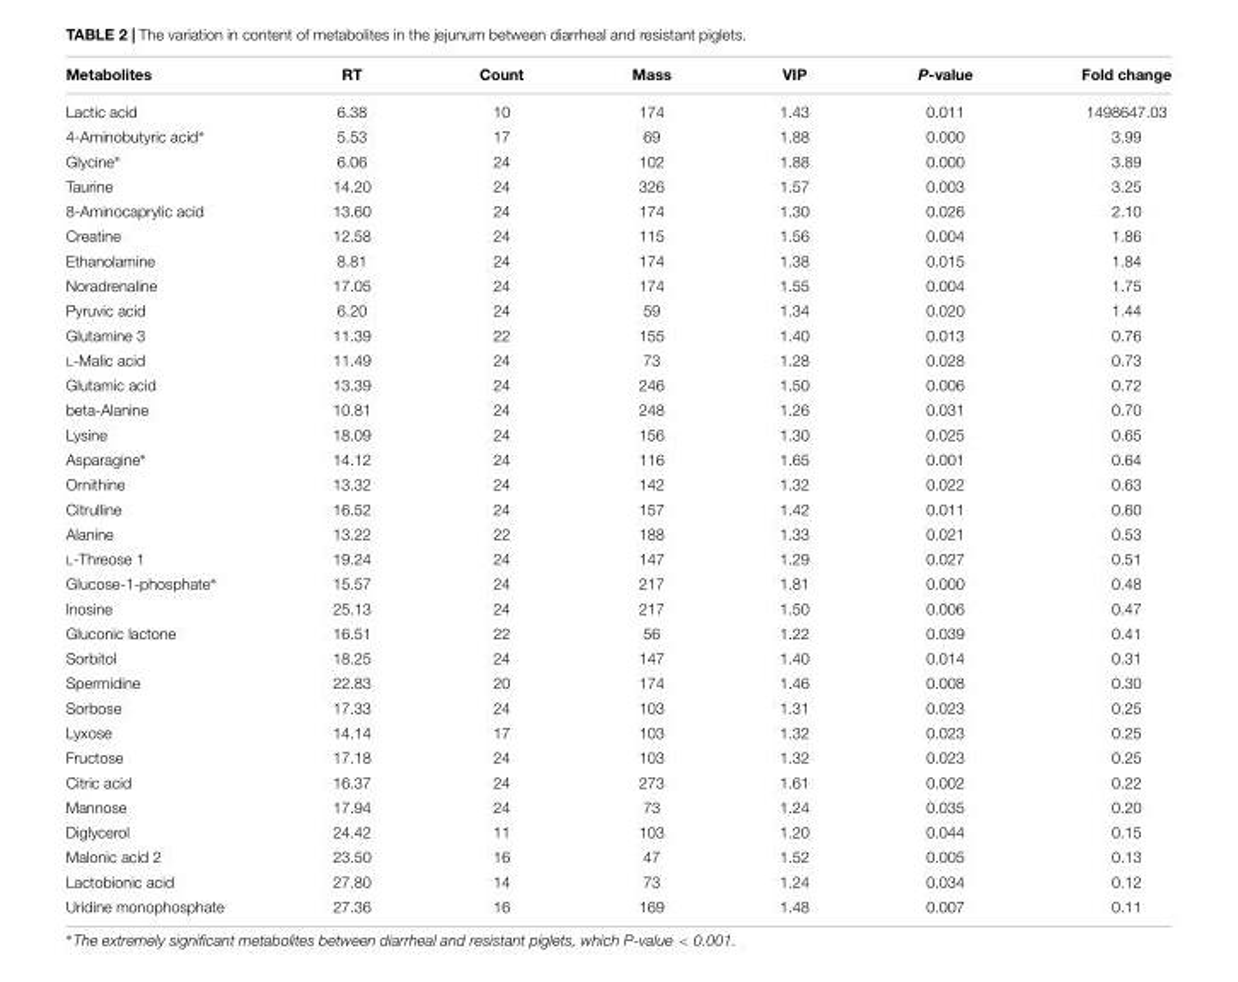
<table><thead><tr><td>Metabolites</td><td>RT</td><td>Count</td><td>Mass</td><td>VIP</td><td>P-value</td><td>Fold change</td></tr></thead><tbody><tr><td>Lactic acid</td><td>6.38</td><td>10</td><td>174</td><td>1.43</td><td>0.011</td><td>1498647.03</td></tr><tr><td>4-Aminobutyric acid∗</td><td>5.53</td><td>17</td><td>69</td><td>1.88</td><td>0.000</td><td>3.99</td></tr><tr><td>Glycine∗</td><td>6.06</td><td>24</td><td>102</td><td>1.88</td><td>0.000</td><td>3.89</td></tr><tr><td>Taurine</td><td>14.20</td><td>24</td><td>326</td><td>1.57</td><td>0.003</td><td>3.25</td></tr><tr><td>8-Aminocaprylic acid</td><td>13.60</td><td>24</td><td>174</td><td>1.30</td><td>0.026</td><td>2.10</td></tr><tr><td>Creatine</td><td>12.58</td><td>24</td><td>115</td><td>1.56</td><td>0.004</td><td>1.86</td></tr><tr><td>Ethanolamine</td><td>8.81</td><td>24</td><td>174</td><td>1.38</td><td>0.015</td><td>1.84</td></tr><tr><td>Noradrenaline</td><td>17.05</td><td>24</td><td>174</td><td>1.55</td><td>0.004</td><td>1.75</td></tr><tr><td>Pyruvic acid</td><td>6.20</td><td>24</td><td>59</td><td>1.34</td><td>0.020</td><td>1.44</td></tr><tr><td>Glutamine 3</td><td>11.39</td><td>22</td><td>155</td><td>1.40</td><td>0.013</td><td>0.76</td></tr><tr><td>L-Malic acid</td><td>11.49</td><td>24</td><td>73</td><td>1.28</td><td>0.028</td><td>0.73</td></tr><tr><td>Glutamic acid</td><td>13.39</td><td>24</td><td>246</td><td>1.50</td><td>0.006</td><td>0.72</td></tr><tr><td>beta-Alanine</td><td>10.81</td><td>24</td><td>248</td><td>1.26</td><td>0.031</td><td>0.70</td></tr><tr><td>Lysine</td><td>18.09</td><td>24</td><td>156</td><td>1.30</td><td>0.025</td><td>0.65</td></tr><tr><td>Asparagine∗</td><td>14.12</td><td>24</td><td>116</td><td>1.65</td><td>0.001</td><td>0.64</td></tr><tr><td>Ornithine</td><td>13.32</td><td>24</td><td>142</td><td>1.32</td><td>0.022</td><td>0.63</td></tr><tr><td>Citrulline</td><td>16.52</td><td>24</td><td>157</td><td>1.42</td><td>0.011</td><td>0.60</td></tr><tr><td>Alanine</td><td>13.22</td><td>22</td><td>188</td><td>1.33</td><td>0.021</td><td>0.53</td></tr><tr><td>L-Threose 1</td><td>19.24</td><td>24</td><td>147</td><td>1.29</td><td>0.027</td><td>0.51</td></tr><tr><td>Glucose-1-phosphate∗</td><td>15.57</td><td>24</td><td>217</td><td>1.81</td><td>0.000</td><td>0.48</td></tr><tr><td>Inosine</td><td>25.13</td><td>24</td><td>217</td><td>1.50</td><td>0.006</td><td>0.47</td></tr><tr><td>Gluconic lactone</td><td>16.51</td><td>22</td><td>56</td><td>1.22</td><td>0.039</td><td>0.41</td></tr><tr><td>Sorbitol</td><td>18.25</td><td>24</td><td>147</td><td>1.40</td><td>0.014</td><td>0.31</td></tr><tr><td>Spermidine</td><td>22.83</td><td>20</td><td>174</td><td>1.46</td><td>0.008</td><td>0.30</td></tr><tr><td>Sorbose</td><td>17.33</td><td>24</td><td>103</td><td>1.31</td><td>0.023</td><td>0.25</td></tr><tr><td>Lyxose</td><td>14.14</td><td>17</td><td>103</td><td>1.32</td><td>0.023</td><td>0.25</td></tr><tr><td>Fructose</td><td>17.18</td><td>24</td><td>103</td><td>1.32</td><td>0.023</td><td>0.25</td></tr><tr><td>Citric acid</td><td>16.37</td><td>24</td><td>273</td><td>1.61</td><td>0.002</td><td>0.22</td></tr><tr><td>Mannose</td><td>17.94</td><td>24</td><td>73</td><td>1.24</td><td>0.035</td><td>0.20</td></tr><tr><td>Diglycerol</td><td>24.42</td><td>11</td><td>103</td><td>1.20</td><td>0.044</td><td>0.15</td></tr><tr><td>Malonic acid 2</td><td>23.50</td><td>16</td><td>47</td><td>1.52</td><td>0.005</td><td>0.13</td></tr><tr><td>Lactobionic acid</td><td>27.80</td><td>14</td><td>73</td><td>1.24</td><td>0.034</td><td>0.12</td></tr><tr><td>Uridine monophosphate</td><td>27.36</td><td>16</td><td>169</td><td>1.48</td><td>0.007</td><td>0.11</td></tr></tbody></table>